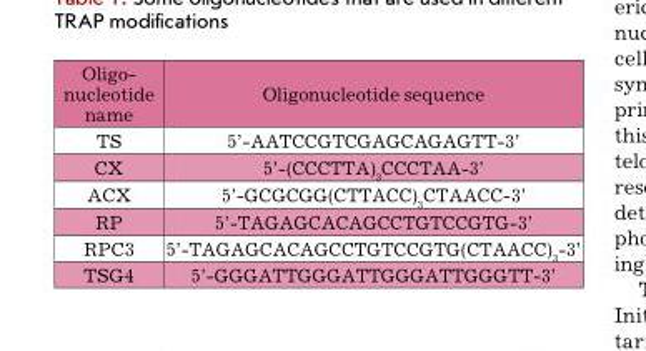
<table><thead><tr><td>Oligo- nucleo tide name</td><td>Oligonucleotide sequence</td></tr></thead><tbody><tr><td>TS</td><td>5’-AATCCGTCGAGCAGAGTT-3’</td></tr><tr><td>CX</td><td>5’-(CCCTTA)<sub>3</sub>CCCTAA-3’</td></tr><tr><td>ACX</td><td>5’-GCGCGG(CTTACC)<sub>3</sub>CTAACC-3’</td></tr><tr><td>RP</td><td>5’-TAGAGCACAGCCTGTCCGTG-3’</td></tr><tr><td>RPC3</td><td>5’-TAGAGCACAGCCTGTCCGTG(CTAACC)<sub>3</sub>-3’</td></tr><tr><td>TSG4</td><td>5’-GGGATTGGGATTGGGATTGGGTT-3’</td></tr></tbody></table>